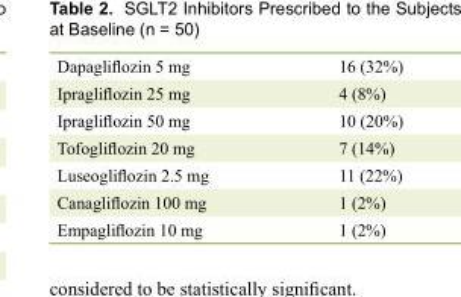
<table><tbody><tr><td>Dapagliflozin 5 mg</td><td>16 (32%)</td></tr><tr><td>Ipragliflozin 25 mg</td><td>4 (8%)</td></tr><tr><td>Ipragliflozin 50 mg</td><td>10 (20%)</td></tr><tr><td>Tofogliflozin 20 mg</td><td>7 (14%)</td></tr><tr><td>Luseogliflozin 2.5 mg</td><td>11 (22%)</td></tr><tr><td>Canagliflozin 100 mg</td><td>1 (2%)</td></tr><tr><td>Empagliflozin 10 mg</td><td>1 (2%)</td></tr></tbody></table>